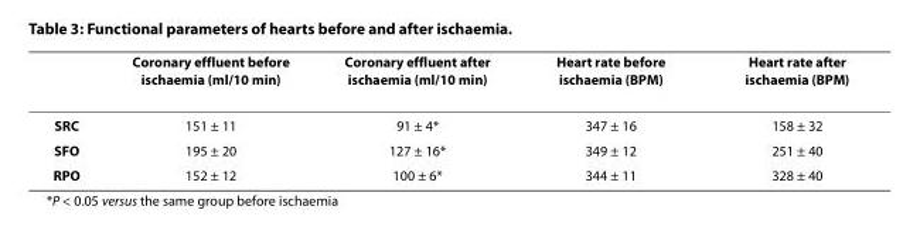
<table><thead><tr><td></td><td>Coronary effluent before ischaemia (ml/10 min)</td><td>Coronary effluent after ischaemia (ml/10 min)</td><td>Heart rate before ischaemia (BPM)</td><td>Heart rate after ischaemia (BPM)</td></tr></thead><tbody><tr><td>SRC</td><td>151 ± 11</td><td>91 ± 4*</td><td>347 ± 16</td><td>158 ± 32</td></tr><tr><td>SFO</td><td>195 ± 20</td><td>127 ± 16*</td><td>349 ± 12</td><td>251 ± 40</td></tr><tr><td>RPO</td><td>152 ± 12</td><td>100 ± 6*</td><td>344 ± 11</td><td>328 ± 40</td></tr></tbody></table>